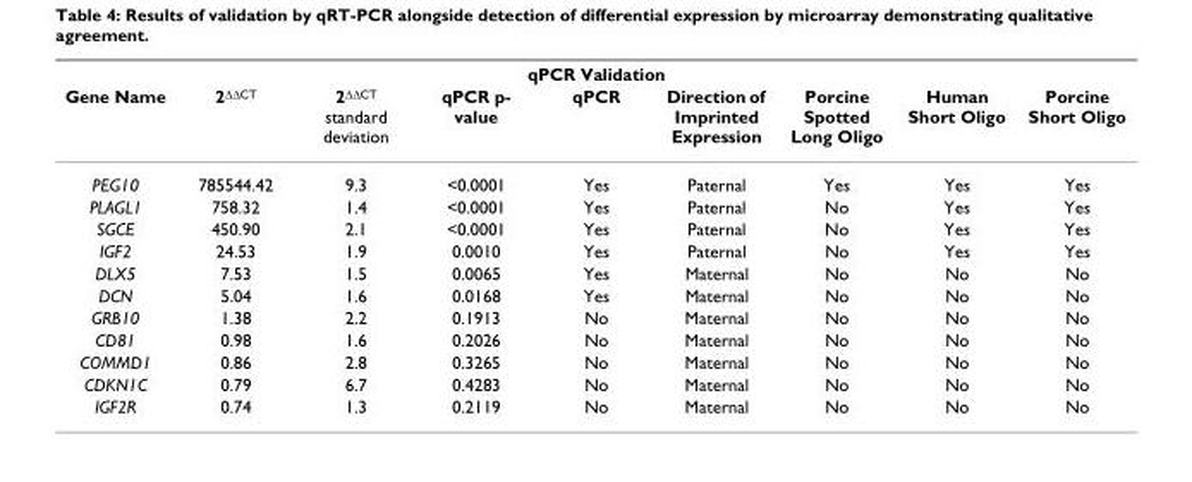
<table><thead><tr><td colspan="9">qPCR Validation</td></tr><tr><td>Gene Name</td><td>2∆∆CT</td><td>2∆∆CT standard deviation</td><td>qPCR p- value</td><td>qPCR</td><td>Direction of Imprinted Expression</td><td>Porcine Spotted Long Oligo</td><td>Human Short Oligo</td><td>Porcine Short Oligo</td></tr></thead><tbody><tr><td>PEG10</td><td>785544.42</td><td>9.3</td><td>&lt;0.0001</td><td>Yes</td><td>Paternal</td><td>Yes</td><td>Yes</td><td>Yes</td></tr><tr><td>PLAGL1</td><td>758.32</td><td>1.4</td><td>&lt;0.0001</td><td>Yes</td><td>Paternal</td><td>No</td><td>Yes</td><td>Yes</td></tr><tr><td>SGCE</td><td>450.90</td><td>2.1</td><td>&lt;0.0001</td><td>Yes</td><td>Paternal</td><td>No</td><td>Yes</td><td>Yes</td></tr><tr><td>IGF2</td><td>24.53</td><td>1.9</td><td>0.0010</td><td>Yes</td><td>Paternal</td><td>No</td><td>Yes</td><td>Yes</td></tr><tr><td>DLX5</td><td>7.53</td><td>1.5</td><td>0.0065</td><td>Yes</td><td>Maternal</td><td>No</td><td>No</td><td>No</td></tr><tr><td>DCN</td><td>5.04</td><td>1.6</td><td>0.0168</td><td>Yes</td><td>Maternal</td><td>No</td><td>No</td><td>No</td></tr><tr><td>GRB10</td><td>1.38</td><td>2.2</td><td>0.1913</td><td>No</td><td>Maternal</td><td>No</td><td>No</td><td>No</td></tr><tr><td>CD81</td><td>0.98</td><td>1.6</td><td>0.2026</td><td>No</td><td>Maternal</td><td>No</td><td>No</td><td>No</td></tr><tr><td>COMMD1</td><td>0.86</td><td>2.8</td><td>0.3265</td><td>No</td><td>Maternal</td><td>No</td><td>No</td><td>No</td></tr><tr><td>CDKN1C</td><td>0.79</td><td>6.7</td><td>0.4283</td><td>No</td><td>Maternal</td><td>No</td><td>No</td><td>No</td></tr><tr><td>IGF2R</td><td>0.74</td><td>1.3</td><td>0.2119</td><td>No</td><td>Maternal</td><td>No</td><td>No</td><td>No</td></tr></tbody></table>